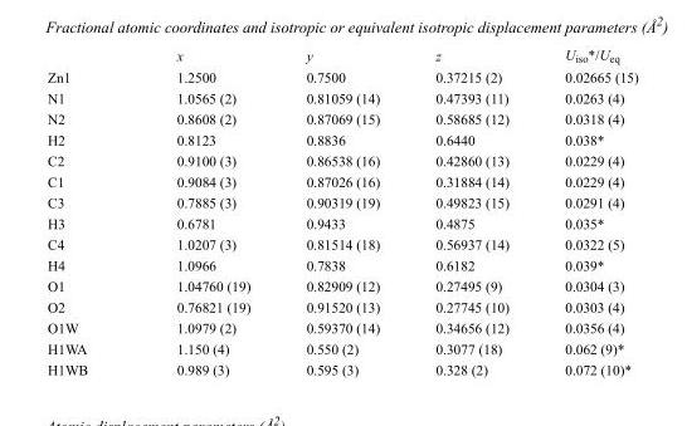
<table><thead><tr><td></td><td>x</td><td>y</td><td>z</td><td>U<sub>iso</sub>*/U<sub>eq</sub></td></tr></thead><tbody><tr><td>Zn1</td><td>1.2500</td><td>0.7500</td><td>0.37215 (2)</td><td>0.02665 (15)</td></tr><tr><td>N1</td><td>1.0565 (2)</td><td>0.81059 (14)</td><td>0.47393 (11)</td><td>0.0263 (4)</td></tr><tr><td>N2</td><td>0.8608 (2)</td><td>0.87069 (15)</td><td>0.58685 (12)</td><td>0.0318 (4)</td></tr><tr><td>H2</td><td>0.8123</td><td>0.8836</td><td>0.6440</td><td>0.038*</td></tr><tr><td>C2</td><td>0.9100 (3)</td><td>0.86538 (16)</td><td>0.42860 (13)</td><td>0.0229 (4)</td></tr><tr><td>C1</td><td>0.9084 (3)</td><td>0.87026 (16)</td><td>0.31884 (14)</td><td>0.0229 (4)</td></tr><tr><td>C3</td><td>0.7885 (3)</td><td>0.90319 (19)</td><td>0.49823 (15)</td><td>0.0291 (4)</td></tr><tr><td>H3</td><td>0.6781</td><td>0.9433</td><td>0.4875</td><td>0.035*</td></tr><tr><td>C4</td><td>1.0207 (3)</td><td>0.81514 (18)</td><td>0.56937 (14)</td><td>0.0322 (5)</td></tr><tr><td>H4</td><td>1.0966</td><td>0.7838</td><td>0.6182</td><td>0.039*</td></tr><tr><td>O1</td><td>1.04760 (19)</td><td>0.82909 (12)</td><td>0.27495 (9)</td><td>0.0304 (3)</td></tr><tr><td>O2</td><td>0.76821 (19)</td><td>0.91520 (13)</td><td>0.27745 (10)</td><td>0.0303 (4)</td></tr><tr><td>O1W</td><td>1.0979 (2)</td><td>0.59370 (14)</td><td>0.34656 (12)</td><td>0.0356 (4)</td></tr><tr><td>H1WA</td><td>1.150 (4)</td><td>0.550 (2)</td><td>0.3077 (18)</td><td>0.062 (9)*</td></tr><tr><td>H1WB</td><td>0.989 (3)</td><td>0.595 (3)</td><td>0.328 (2)</td><td>0.072 (10)*</td></tr></tbody></table>